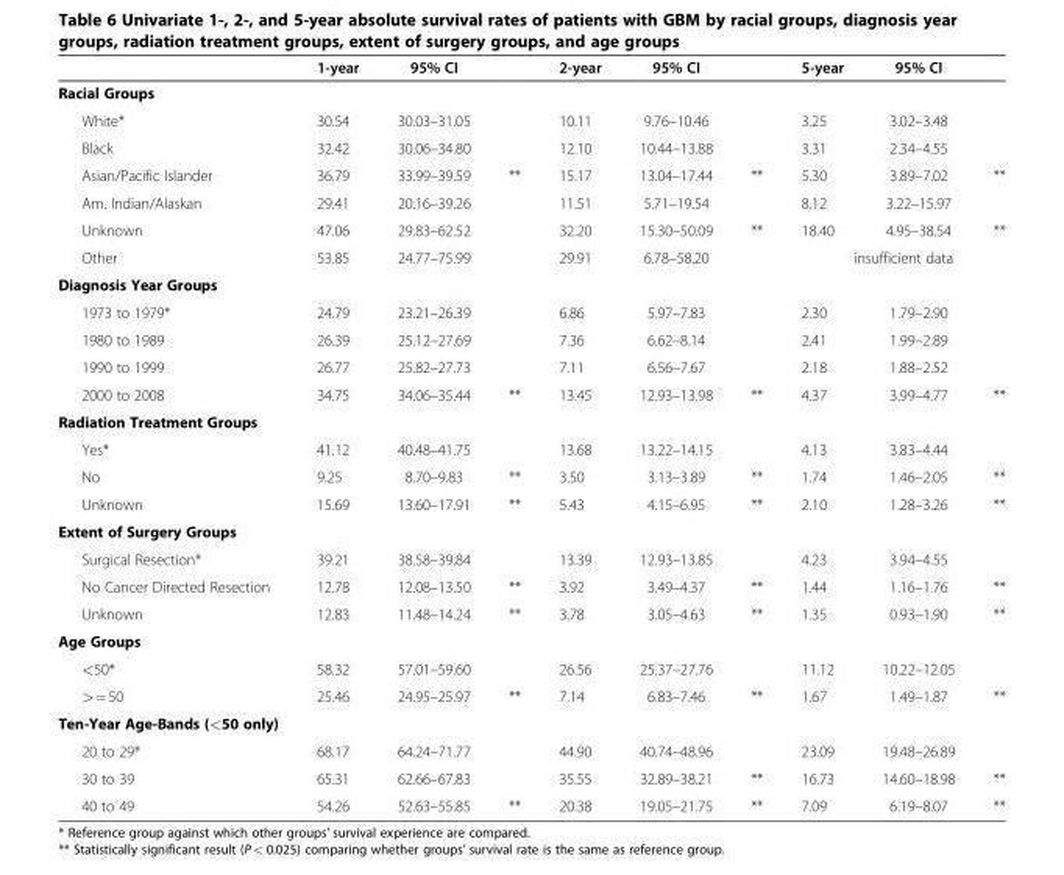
<table><thead><tr><td></td><td>1-year</td><td>95% CI</td><td></td><td>2-year</td><td>95% CI</td><td></td><td>5-year</td><td>95% CI</td><td></td></tr></thead><tbody><tr><td colspan="10">Racial Groups</td></tr><tr><td>White*</td><td>30.54</td><td>30.03–31.05</td><td></td><td>10.11</td><td>9.76–10.46</td><td></td><td>3.25</td><td>3.02–3.48</td><td></td></tr><tr><td>Black</td><td>32.42</td><td>30.06–34.80</td><td></td><td>12.10</td><td>10.44–13.88</td><td></td><td>3.31</td><td>2.34–4.55</td><td></td></tr><tr><td>Asian/Pacific Islander</td><td>36.79</td><td>33.99–39.59</td><td>**</td><td>15.17</td><td>13.04–17.44</td><td>**</td><td>5.30</td><td>3.89–7.02</td><td>**</td></tr><tr><td>Am. Indian/Alaskan</td><td>29.41</td><td>20.16–39.26</td><td></td><td>11.51</td><td>5.71–19.54</td><td></td><td>8.12</td><td>3.22–15.97</td><td></td></tr><tr><td>Unknown</td><td>47.06</td><td>29.83–62.52</td><td></td><td>32.20</td><td>15.30–50.09</td><td>**</td><td>18.40</td><td>4.95–38.54</td><td>**</td></tr><tr><td>Other</td><td>53.85</td><td>24.77–75.99</td><td></td><td>29.91</td><td>6.78–58.20</td><td></td><td colspan="3">insufficient data</td></tr><tr><td colspan="10">Diagnosis Year Groups</td></tr><tr><td>1973 to 1979*</td><td>24.79</td><td>23.21–26.39</td><td></td><td>6.86</td><td>5.97–7.83</td><td></td><td>2.30</td><td>1.79–2.90</td><td></td></tr><tr><td>1980 to 1989</td><td>26.39</td><td>25.12–27.69</td><td></td><td>7.36</td><td>6.62–8.14</td><td></td><td>2.41</td><td>1.99–2.89</td><td></td></tr><tr><td>1990 to 1999</td><td>26.77</td><td>25.82–27.73</td><td></td><td>7.11</td><td>6.56–7.67</td><td></td><td>2.18</td><td>1.88–2.52</td><td></td></tr><tr><td>2000 to 2008</td><td>34.75</td><td>34.06–35.44</td><td>**</td><td>13.45</td><td>12.93–13.98</td><td>**</td><td>4.37</td><td>3.99–4.77</td><td>**</td></tr><tr><td colspan="10">Radiation Treatment Groups</td></tr><tr><td>Yes*</td><td>41.12</td><td>40.48–41.75</td><td></td><td>13.68</td><td>13.22–14.15</td><td></td><td>4.13</td><td>3.83–4.44</td><td></td></tr><tr><td>No</td><td>9.25</td><td>8.70–9.83</td><td>**</td><td>3.50</td><td>3.13–3.89</td><td>**</td><td>1.74</td><td>1.46–2.05</td><td>**</td></tr><tr><td>Unknown</td><td>15.69</td><td>13.60–17.91</td><td>**</td><td>5.43</td><td>4.15–6.95</td><td>**</td><td>2.10</td><td>1.28–3.26</td><td>**</td></tr><tr><td colspan="10">Extent of Surgery Groups</td></tr><tr><td>Surgical Resection*</td><td>39.21</td><td>38.58–39.84</td><td></td><td>13.39</td><td>12.93–13.85</td><td></td><td>4.23</td><td>3.94–4.55</td><td></td></tr><tr><td>No Cancer Directed Resection</td><td>12.78</td><td>12.08–13.50</td><td>**</td><td>3.92</td><td>3.49–4.37</td><td>**</td><td>1.44</td><td>1.16–1.76</td><td>**</td></tr><tr><td>Unknown</td><td>12.83</td><td>11.48–14.24</td><td>**</td><td>3.78</td><td>3.05–4.63</td><td>**</td><td>1.35</td><td>0.93–1.90</td><td>**</td></tr><tr><td colspan="10">Age Groups</td></tr><tr><td>&lt;50*</td><td>58.32</td><td>57.01–59.60</td><td></td><td>26.56</td><td>25.37–27.76</td><td></td><td>11.12</td><td>10.22–12.05</td><td></td></tr><tr><td>&gt; = 50</td><td>25.46</td><td>24.95–25.97</td><td>**</td><td>7.14</td><td>6.83–7.46</td><td>**</td><td>1.67</td><td>1.49–1.87</td><td>**</td></tr><tr><td colspan="10">Ten-Year Age-Bands (&lt;50 only)</td></tr><tr><td>20 to 29*</td><td>68.17</td><td>64.24–71.77</td><td></td><td>44.90</td><td>40.74–48.96</td><td></td><td>23.09</td><td>19.48–26.89</td><td></td></tr><tr><td>30 to 39</td><td>65.31</td><td>62.66–67.83</td><td></td><td>35.55</td><td>32.89–38.21</td><td>**</td><td>16.73</td><td>14.60–18.98</td><td>**</td></tr><tr><td>40 to 49</td><td>54.26</td><td>52.63–55.85</td><td>**</td><td>20.38</td><td>19.05–21.75</td><td>**</td><td>7.09</td><td>6.19–8.07</td><td>**</td></tr></tbody></table>